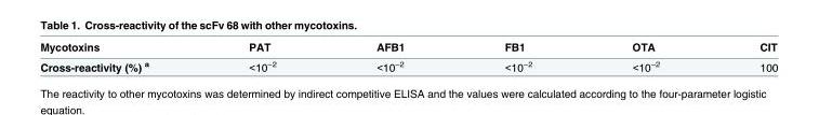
<table><thead><tr><td>Mycotoxins</td><td>PAT</td><td>AFB1</td><td>FB1</td><td>OTA</td><td>CIT</td></tr></thead><tbody><tr><td>Cross-reactivity (%) <sup>a</sup></td><td>&lt;10<sup>−2</sup></td><td>&lt;10<sup>−2</sup></td><td>&lt;10<sup>−2</sup></td><td>&lt;10<sup>−2</sup></td><td>100</td></tr></tbody></table>